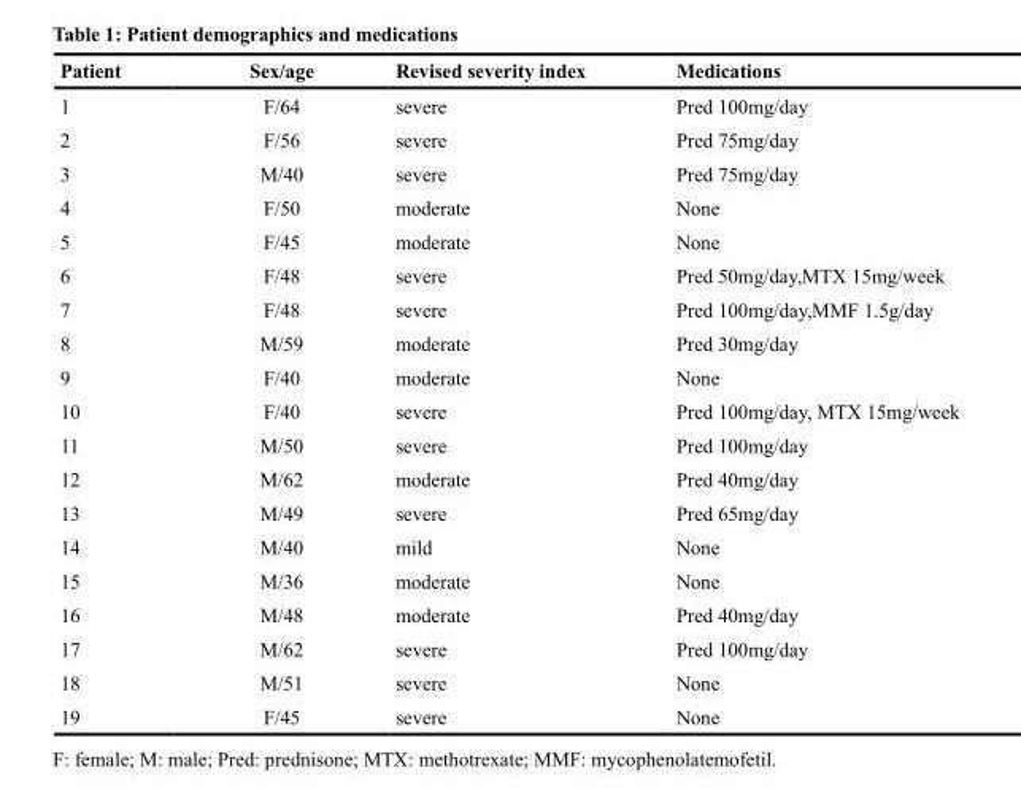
<table><thead><tr><td>Patient</td><td>Sex/age</td><td>Revised severity index</td><td>Medications</td></tr></thead><tbody><tr><td>1</td><td>F/64</td><td>severe</td><td>Pred 100mg/day</td></tr><tr><td>2</td><td>F/56</td><td>severe</td><td>Pred 75mg/day</td></tr><tr><td>3</td><td>M/40</td><td>severe</td><td>Pred 75mg/day</td></tr><tr><td>4</td><td>F/50</td><td>moderate</td><td>None</td></tr><tr><td>5</td><td>F/45</td><td>moderate</td><td>None</td></tr><tr><td>6</td><td>F/48</td><td>severe</td><td>Pred 50mg/day,MTX 15mg/week</td></tr><tr><td>7</td><td>F/48</td><td>severe</td><td>Pred 100mg/day,MMF 1.5g/day</td></tr><tr><td>8</td><td>M/59</td><td>moderate</td><td>Pred 30mg/day</td></tr><tr><td>9</td><td>F/40</td><td>moderate</td><td>None</td></tr><tr><td>10</td><td>F/40</td><td>severe</td><td>Pred 100mg/day, MTX 15mg/week</td></tr><tr><td>11</td><td>M/50</td><td>severe</td><td>Pred 100mg/day</td></tr><tr><td>12</td><td>M/62</td><td>moderate</td><td>Pred 40mg/day</td></tr><tr><td>13</td><td>M/49</td><td>severe</td><td>Pred 65mg/day</td></tr><tr><td>14</td><td>M/40</td><td>mild</td><td>None</td></tr><tr><td>15</td><td>M/36</td><td>moderate</td><td>None</td></tr><tr><td>16</td><td>M/48</td><td>moderate</td><td>Pred 40mg/day</td></tr><tr><td>17</td><td>M/62</td><td>severe</td><td>Pred 100mg/day</td></tr><tr><td>18</td><td>M/51</td><td>severe</td><td>None</td></tr><tr><td>19</td><td>F/45</td><td>severe</td><td>None</td></tr></tbody></table>